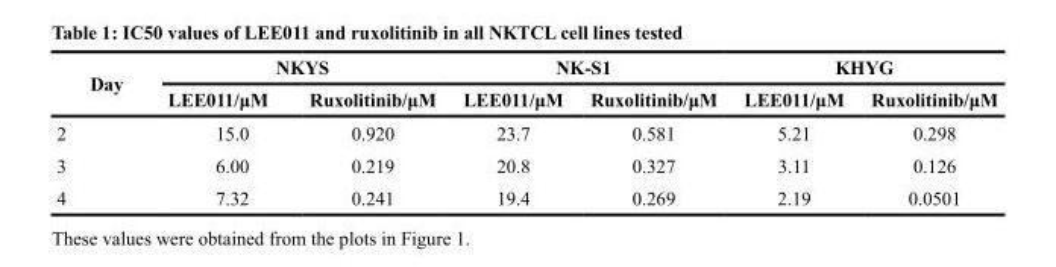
<table><thead><tr><td rowspan="2">Day</td><td colspan="2">NKYS</td><td colspan="2">NK-S1</td><td colspan="2">KHYG</td></tr><tr><td>LEE011/μM</td><td>Ruxolitinib/μM</td><td>LEE011/μM</td><td>Ruxolitinib/μM</td><td>LEE011/μM</td><td>Ruxolitinib/μM</td></tr></thead><tbody><tr><td>2</td><td>15.0</td><td>0.920</td><td>23.7</td><td>0.581</td><td>5.21</td><td>0.298</td></tr><tr><td>3</td><td>6.00</td><td>0.219</td><td>20.8</td><td>0.327</td><td>3.11</td><td>0.126</td></tr><tr><td>4</td><td>7.32</td><td>0.241</td><td>19.4</td><td>0.269</td><td>2.19</td><td>0.0501</td></tr></tbody></table>